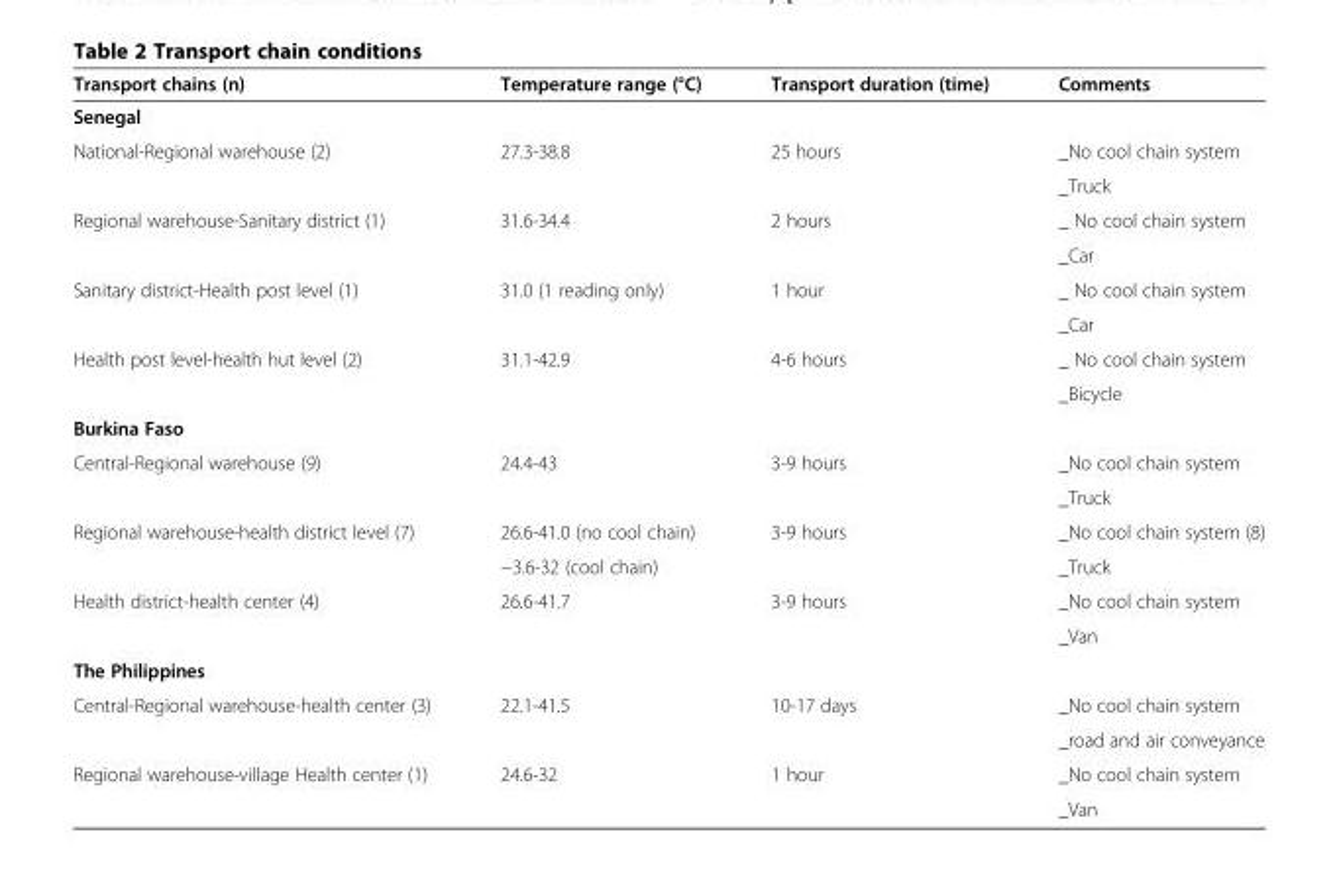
<table><thead><tr><td>Transport chains (n)</td><td>Temperature range (°C)</td><td>Transport duration (time)</td><td>Comments</td></tr></thead><tbody><tr><td colspan="4">Senegal</td></tr><tr><td rowspan="2">National-Regional warehouse (2)</td><td rowspan="2">27.3-38.8</td><td rowspan="2">25 hours</td><td>_No cool chain system</td></tr><tr><td>_Truck</td></tr><tr><td rowspan="2">Regional warehouse-Sanitary district (1)</td><td rowspan="2">31.6-34.4</td><td rowspan="2">2 hours</td><td>_ No cool chain system</td></tr><tr><td>_Car</td></tr><tr><td rowspan="2">Sanitary district-Health post level (1)</td><td rowspan="2">31.0 (1 reading only)</td><td rowspan="2">1 hour</td><td>_ No cool chain system</td></tr><tr><td>_Car</td></tr><tr><td rowspan="2">Health post level-health hut level (2)</td><td rowspan="2">31.1-42.9</td><td rowspan="2">4-6 hours</td><td>_ No cool chain system</td></tr><tr><td>_Bicycle</td></tr><tr><td colspan="4">Burkina Faso</td></tr><tr><td rowspan="2">Central-Regional warehouse (9)</td><td rowspan="2">24.4-43</td><td rowspan="2">3-9 hours</td><td>_No cool chain system</td></tr><tr><td>_Truck</td></tr><tr><td rowspan="2">Regional warehouse-health district level (7)</td><td>26.6-41.0 (no cool chain)</td><td rowspan="2">3-9 hours</td><td>_No cool chain system (8)</td></tr><tr><td>−3.6-32 (cool chain)</td><td>_Truck</td></tr><tr><td rowspan="2">Health district-health center (4)</td><td rowspan="2">26.6-41.7</td><td rowspan="2">3-9 hours</td><td>_No cool chain system</td></tr><tr><td>_Van</td></tr><tr><td colspan="4">The Philippines</td></tr><tr><td rowspan="2">Central-Regional warehouse-health center (3)</td><td rowspan="2">22.1-41.5</td><td rowspan="2">10-17 days</td><td>_No cool chain system</td></tr><tr><td>_road and air conveyance</td></tr><tr><td rowspan="2">Regional warehouse-village Health center (1)</td><td rowspan="2">24.6-32</td><td rowspan="2">1 hour</td><td>_No cool chain system</td></tr><tr><td>_Van</td></tr></tbody></table>